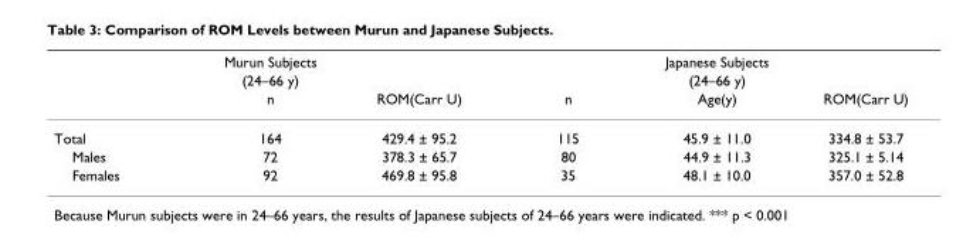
<table><thead><tr><td rowspan="2" colspan="3">Murun Subjects (24–66 y)</td><td rowspan="2" colspan="3">Japanese Subjects (24–66 y)</td></tr><tr></tr><tr><td></td><td>n</td><td>ROM(Carr U)</td><td>n</td><td>Age(y)</td><td>ROM(Carr U)</td></tr></thead><tbody><tr><td>Total</td><td>164</td><td>429.4 ± 95.2</td><td>115</td><td>45.9 ± 11.0</td><td>334.8 ± 53.7</td></tr><tr><td>Males</td><td>72</td><td>378.3 ± 65.7</td><td>80</td><td>44.9 ± 11.3</td><td>325.1 ± 5.14</td></tr><tr><td>Females</td><td>92</td><td>469.8 ± 95.8</td><td>35</td><td>48.1 ± 10.0</td><td>357.0 ± 52.8</td></tr></tbody></table>